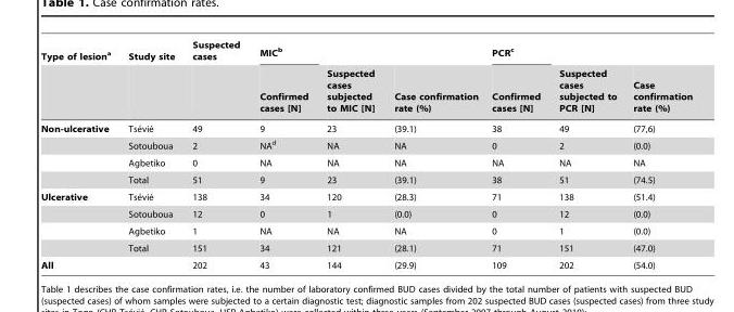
<table><thead><tr><td rowspan="2">Type of lesion<sup>a</sup></td><td rowspan="2">Study site</td><td rowspan="2">Suspected cases</td><td rowspan="2">MIC<sup>b</sup> Confirmed cases [N]</td><td rowspan="2">Suspected cases subjected to MIC [N]</td><td rowspan="2">Case confirmation rate (%)</td><td rowspan="2">PCR<sup>c</sup> Confirmed cases [N]</td><td rowspan="2">Suspected cases subjected to PCR [N]</td><td rowspan="2">Case confirmation rate (%)</td></tr><tr></tr></thead><tbody><tr><td rowspan="4">Non-ulcerative</td><td>Tse´vie´</td><td>49</td><td>9</td><td>23</td><td>(39.1)</td><td>38</td><td>49</td><td>(77,6)</td></tr><tr><td>Sotouboua</td><td>2</td><td>NA<sup>d</sup></td><td>NA</td><td>NA</td><td>0</td><td>2</td><td>(0.0)</td></tr><tr><td>Agbetiko</td><td>0</td><td>NA</td><td>NA</td><td>NA</td><td>NA</td><td>NA</td><td>NA</td></tr><tr><td>Total</td><td>51</td><td>9</td><td>23</td><td>(39.1)</td><td>38</td><td>51</td><td>(74.5)</td></tr><tr><td rowspan="4">Ulcerative</td><td>Tse´vie´</td><td>138</td><td>34</td><td>120</td><td>(28.3)</td><td>71</td><td>138</td><td>(51.4)</td></tr><tr><td>Sotouboua</td><td>12</td><td>0</td><td>1</td><td>(0.0)</td><td>0</td><td>12</td><td>(0.0)</td></tr><tr><td>Agbetiko</td><td>1</td><td>NA</td><td>NA</td><td>NA</td><td>0</td><td>1</td><td>(0.0)</td></tr><tr><td>Total</td><td>151</td><td>34</td><td>121</td><td>(28.1)</td><td>71</td><td>151</td><td>(47.0)</td></tr><tr><td>All</td><td></td><td>202</td><td>43</td><td>144</td><td>(29.9)</td><td>109</td><td>202</td><td>(54.0)</td></tr></tbody></table>